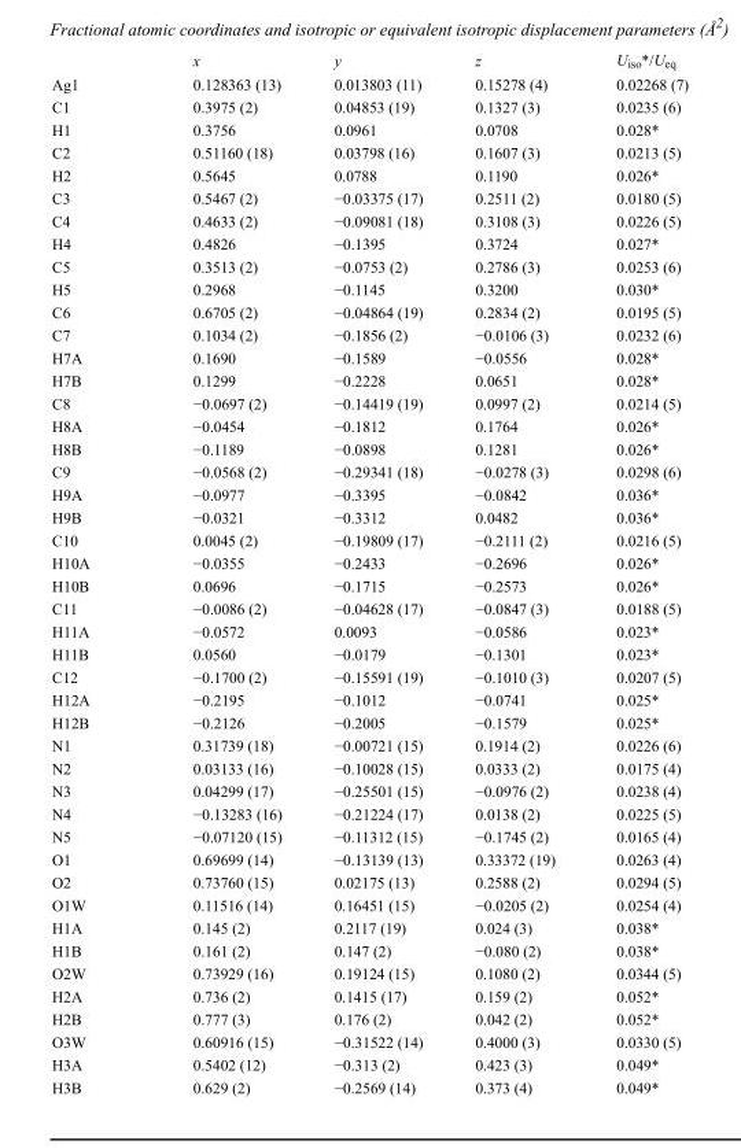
<table><thead><tr><td></td><td>x</td><td>y</td><td>z</td><td>U<sub>iso</sub>*/U<sub>eq</sub></td></tr></thead><tbody><tr><td>Ag1</td><td>0.128363 (13)</td><td>0.013803 (11)</td><td>0.15278 (4)</td><td>0.02268 (7)</td></tr><tr><td>C1</td><td>0.3975 (2)</td><td>0.04853 (19)</td><td>0.1327 (3)</td><td>0.0235 (6)</td></tr><tr><td>H1</td><td>0.3756</td><td>0.0961</td><td>0.0708</td><td>0.028*</td></tr><tr><td>C2</td><td>0.51160 (18)</td><td>0.03798 (16)</td><td>0.1607 (3)</td><td>0.0213 (5)</td></tr><tr><td>H2</td><td>0.5645</td><td>0.0788</td><td>0.1190</td><td>0.026*</td></tr><tr><td>C3</td><td>0.5467 (2)</td><td>−0.03375 (17)</td><td>0.2511 (2)</td><td>0.0180 (5)</td></tr><tr><td>C4</td><td>0.4633 (2)</td><td>−0.09081 (18)</td><td>0.3108 (3)</td><td>0.0226 (5)</td></tr><tr><td>H4</td><td>0.4826</td><td>−0.1395</td><td>0.3724</td><td>0.027*</td></tr><tr><td>C5</td><td>0.3513 (2)</td><td>−0.0753 (2)</td><td>0.2786 (3)</td><td>0.0253 (6)</td></tr><tr><td>H5</td><td>0.2968</td><td>−0.1145</td><td>0.3200</td><td>0.030*</td></tr><tr><td>C6</td><td>0.6705 (2)</td><td>−0.04864 (19)</td><td>0.2834 (2)</td><td>0.0195 (5)</td></tr><tr><td>C7</td><td>0.1034 (2)</td><td>−0.1856 (2)</td><td>−0.0106 (3)</td><td>0.0232 (6)</td></tr><tr><td>H7A</td><td>0.1690</td><td>−0.1589</td><td>−0.0556</td><td>0.028*</td></tr><tr><td>H7B</td><td>0.1299</td><td>−0.2228</td><td>0.0651</td><td>0.028*</td></tr><tr><td>C8</td><td>−0.0697 (2)</td><td>−0.14419 (19)</td><td>0.0997 (2)</td><td>0.0214 (5)</td></tr><tr><td>H8A</td><td>−0.0454</td><td>−0.1812</td><td>0.1764</td><td>0.026*</td></tr><tr><td>H8B</td><td>−0.1189</td><td>−0.0898</td><td>0.1281</td><td>0.026*</td></tr><tr><td>C9</td><td>−0.0568 (2)</td><td>−0.29341 (18)</td><td>−0.0278 (3)</td><td>0.0298 (6)</td></tr><tr><td>H9A</td><td>−0.0977</td><td>−0.3395</td><td>−0.0842</td><td>0.036*</td></tr><tr><td>H9B</td><td>−0.0321</td><td>−0.3312</td><td>0.0482</td><td>0.036*</td></tr><tr><td>C10</td><td>0.0045 (2)</td><td>−0.19809 (17)</td><td>−0.2111 (2)</td><td>0.0216 (5)</td></tr><tr><td>H10A</td><td>−0.0355</td><td>−0.2433</td><td>−0.2696</td><td>0.026*</td></tr><tr><td>H10B</td><td>0.0696</td><td>−0.1715</td><td>−0.2573</td><td>0.026*</td></tr><tr><td>C11</td><td>−0.0086 (2)</td><td>−0.04628 (17)</td><td>−0.0847 (3)</td><td>0.0188 (5)</td></tr><tr><td>H11A</td><td>−0.0572</td><td>0.0093</td><td>−0.0586</td><td>0.023*</td></tr><tr><td>H11B</td><td>0.0560</td><td>−0.0179</td><td>−0.1301</td><td>0.023*</td></tr><tr><td>C12</td><td>−0.1700 (2)</td><td>−0.15591 (19)</td><td>−0.1010 (3)</td><td>0.0207 (5)</td></tr><tr><td>H12A</td><td>−0.2195</td><td>−0.1012</td><td>−0.0741</td><td>0.025*</td></tr><tr><td>H12B</td><td>−0.2126</td><td>−0.2005</td><td>−0.1579</td><td>0.025*</td></tr><tr><td>N1</td><td>0.31739 (18)</td><td>−0.00721 (15)</td><td>0.1914 (2)</td><td>0.0226 (6)</td></tr><tr><td>N2</td><td>0.03133 (16)</td><td>−0.10028 (15)</td><td>0.0333 (2)</td><td>0.0175 (4)</td></tr><tr><td>N3</td><td>0.04299 (17)</td><td>−0.25501 (15)</td><td>−0.0976 (2)</td><td>0.0238 (4)</td></tr><tr><td>N4</td><td>−0.13283 (16)</td><td>−0.21224 (17)</td><td>0.0138 (2)</td><td>0.0225 (5)</td></tr><tr><td>N5</td><td>−0.07120 (15)</td><td>−0.11312 (15)</td><td>−0.1745 (2)</td><td>0.0165 (4)</td></tr><tr><td>O1</td><td>0.69699 (14)</td><td>−0.13139 (13)</td><td>0.33372 (19)</td><td>0.0263 (4)</td></tr><tr><td>O2</td><td>0.73760 (15)</td><td>0.02175 (13)</td><td>0.2588 (2)</td><td>0.0294 (5)</td></tr><tr><td>O1W</td><td>0.11516 (14)</td><td>0.16451 (15)</td><td>−0.0205 (2)</td><td>0.0254 (4)</td></tr><tr><td>H1A</td><td>0.145 (2)</td><td>0.2117 (19)</td><td>0.024 (3)</td><td>0.038*</td></tr><tr><td>H1B</td><td>0.161 (2)</td><td>0.147 (2)</td><td>−0.080 (2)</td><td>0.038*</td></tr><tr><td>O2W</td><td>0.73929 (16)</td><td>0.19124 (15)</td><td>0.1080 (2)</td><td>0.0344 (5)</td></tr><tr><td>H2A</td><td>0.736 (2)</td><td>0.1415 (17)</td><td>0.159 (2)</td><td>0.052*</td></tr><tr><td>H2B</td><td>0.777 (3)</td><td>0.176 (2)</td><td>0.042 (2)</td><td>0.052*</td></tr><tr><td>O3W</td><td>0.60916 (15)</td><td>−0.31522 (14)</td><td>0.4000 (3)</td><td>0.0330 (5)</td></tr><tr><td>H3A</td><td>0.5402 (12)</td><td>−0.313 (2)</td><td>0.423 (3)</td><td>0.049*</td></tr><tr><td>H3B</td><td>0.629 (2)</td><td>−0.2569 (14)</td><td>0.373 (4)</td><td>0.049*</td></tr></tbody></table>